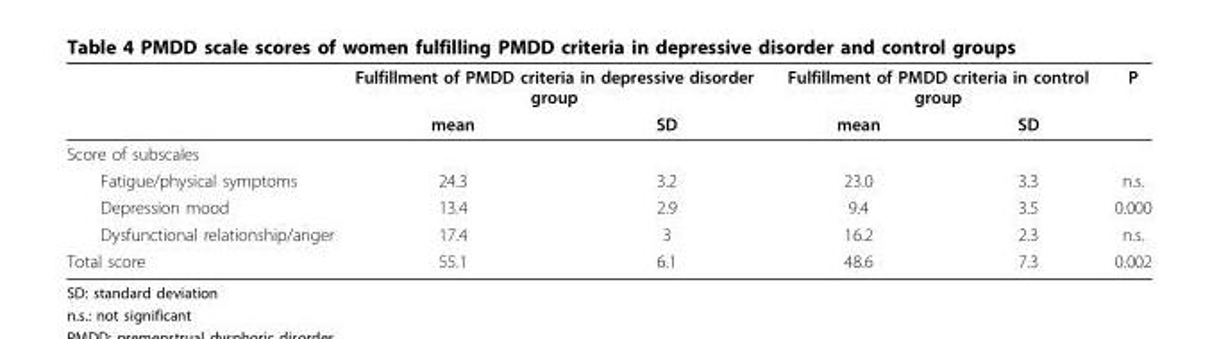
<table><thead><tr><td rowspan="2"></td><td colspan="2">Fulfillment of PMDD criteria in depressive disorder group</td><td colspan="2">Fulfillment of PMDD criteria in control group</td><td rowspan="2">P</td></tr><tr><td>mean</td><td>SD</td><td>mean</td><td>SD</td></tr></thead><tbody><tr><td colspan="6">Score of subscales</td></tr><tr><td>Fatigue/physical symptoms</td><td>24.3</td><td>3.2</td><td>23.0</td><td>3.3</td><td>n.s.</td></tr><tr><td>Depression mood</td><td>13.4</td><td>2.9</td><td>9.4</td><td>3.5</td><td>0.000</td></tr><tr><td>Dysfunctional relationship/anger</td><td>17.4</td><td>3</td><td>16.2</td><td>2.3</td><td>n.s.</td></tr><tr><td>Total score</td><td>55.1</td><td>6.1</td><td>48.6</td><td>7.3</td><td>0.002</td></tr></tbody></table>